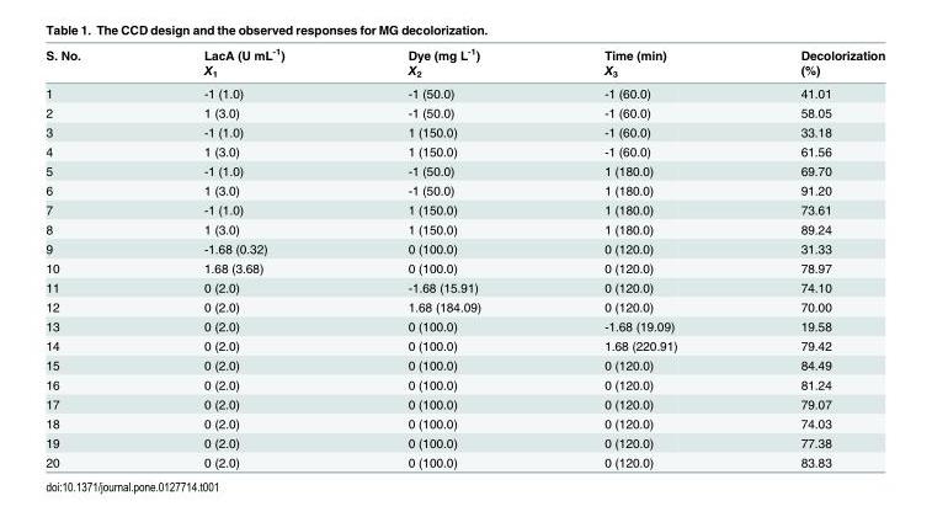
<table><thead><tr><td rowspan="2">S. No.</td><td rowspan="2">LacA (U mL<sup>-1</sup>) X<sub>1</sub></td><td rowspan="2">Dye (mg L<sup>-1</sup>) X<sub>2</sub></td><td rowspan="2">Time (min) X<sub>3</sub></td><td rowspan="2">Decolorization (%)</td></tr><tr></tr></thead><tbody><tr><td>1</td><td>-1 (1.0)</td><td>-1 (50.0)</td><td>-1 (60.0)</td><td>41.01</td></tr><tr><td>2</td><td>1 (3.0)</td><td>-1 (50.0)</td><td>-1 (60.0)</td><td>58.05</td></tr><tr><td>3</td><td>-1 (1.0)</td><td>1 (150.0)</td><td>-1 (60.0)</td><td>33.18</td></tr><tr><td>4</td><td>1 (3.0)</td><td>1 (150.0)</td><td>-1 (60.0)</td><td>61.56</td></tr><tr><td>5</td><td>-1 (1.0)</td><td>-1 (50.0)</td><td>1 (180.0)</td><td>69.70</td></tr><tr><td>6</td><td>1 (3.0)</td><td>-1 (50.0)</td><td>1 (180.0)</td><td>91.20</td></tr><tr><td>7</td><td>-1 (1.0)</td><td>1 (150.0)</td><td>1 (180.0)</td><td>73.61</td></tr><tr><td>8</td><td>1 (3.0)</td><td>1 (150.0)</td><td>1 (180.0)</td><td>89.24</td></tr><tr><td>9</td><td>-1.68 (0.32)</td><td>0 (100.0)</td><td>0 (120.0)</td><td>31.33</td></tr><tr><td>10</td><td>1.68 (3.68)</td><td>0 (100.0)</td><td>0 (120.0)</td><td>78.97</td></tr><tr><td>11</td><td>0 (2.0)</td><td>-1.68 (15.91)</td><td>0 (120.0)</td><td>74.10</td></tr><tr><td>12</td><td>0 (2.0)</td><td>1.68 (184.09)</td><td>0 (120.0)</td><td>70.00</td></tr><tr><td>13</td><td>0 (2.0)</td><td>0 (100.0)</td><td>-1.68 (19.09)</td><td>19.58</td></tr><tr><td>14</td><td>0 (2.0)</td><td>0 (100.0)</td><td>1.68 (220.91)</td><td>79.42</td></tr><tr><td>15</td><td>0 (2.0)</td><td>0 (100.0)</td><td>0 (120.0)</td><td>84.49</td></tr><tr><td>16</td><td>0 (2.0)</td><td>0 (100.0)</td><td>0 (120.0)</td><td>81.24</td></tr><tr><td>17</td><td>0 (2.0)</td><td>0 (100.0)</td><td>0 (120.0)</td><td>79.07</td></tr><tr><td>18</td><td>0 (2.0)</td><td>0 (100.0)</td><td>0 (120.0)</td><td>74.03</td></tr><tr><td>19</td><td>0 (2.0)</td><td>0 (100.0)</td><td>0 (120.0)</td><td>77.38</td></tr><tr><td>20</td><td>0 (2.0)</td><td>0 (100.0)</td><td>0 (120.0)</td><td>83.83</td></tr></tbody></table>